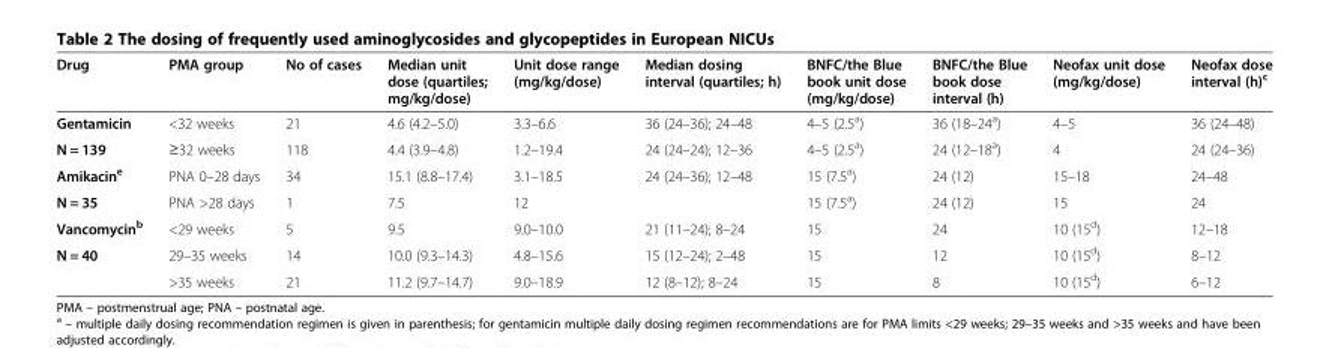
<table><thead><tr><td>Drug</td><td>PMA group</td><td>No of cases</td><td>Median unit dose (quartiles; mg/kg/dose)</td><td>Unit dose range (mg/kg/dose)</td><td>Median dosing interval (quartiles; h)</td><td>BNFC/the Blue book unit dose (mg/kg/dose)</td><td>BNFC/the Blue book dose interval (h)</td><td>Neofax unit dose (mg/kg/dose)</td><td>Neofax dose interval (h)<sup>c</sup></td></tr></thead><tbody><tr><td>Gentamicin</td><td>&lt;32 weeks</td><td>21</td><td>4.6 (4.2–5.0)</td><td>3.3–6.6</td><td>36 (24–36); 24–48</td><td>4–5 (2.5<sup>a</sup>)</td><td>36 (18–24<sup>a</sup>)</td><td>4–5</td><td>36 (24–48)</td></tr><tr><td>N = 139</td><td>≥32 weeks</td><td>118</td><td>4.4 (3.9–4.8)</td><td>1.2–19.4</td><td>24 (24–24); 12–36</td><td>4–5 (2.5<sup>a</sup>)</td><td>24 (12–18<sup>a</sup>)</td><td>4</td><td>24 (24–36)</td></tr><tr><td>Amikacin<sup>e</sup></td><td>PNA 0–28 days</td><td>34</td><td>15.1 (8.8–17.4)</td><td>3.1–18.5</td><td>24 (24–36); 12–48</td><td>15 (7.5<sup>a</sup>)</td><td>24 (12)</td><td>15–18</td><td>24–48</td></tr><tr><td>N = 35</td><td>PNA &gt;28 days</td><td>1</td><td>7.5</td><td>12</td><td></td><td>15 (7.5<sup>a</sup>)</td><td>24 (12)</td><td>15</td><td>24</td></tr><tr><td>Vancomycin<sup>b</sup></td><td>&lt;29 weeks</td><td>5</td><td>9.5</td><td>9.0–10.0</td><td>21 (11–24); 8–24</td><td>15</td><td>24</td><td>10 (15<sup>d</sup>)</td><td>12–18</td></tr><tr><td rowspan="2">N = 40</td><td>29–35 weeks</td><td>14</td><td>10.0 (9.3–14.3)</td><td>4.8–15.6</td><td>15 (12–24); 2–48</td><td>15</td><td>12</td><td>10 (15<sup>d</sup>)</td><td>8–12</td></tr><tr><td>&gt;35 weeks</td><td>21</td><td>11.2 (9.7–14.7)</td><td>9.0–18.9</td><td>12 (8–12); 8–24</td><td>15</td><td>8</td><td>10 (15<sup>d</sup>)</td><td>6–12</td></tr></tbody></table>